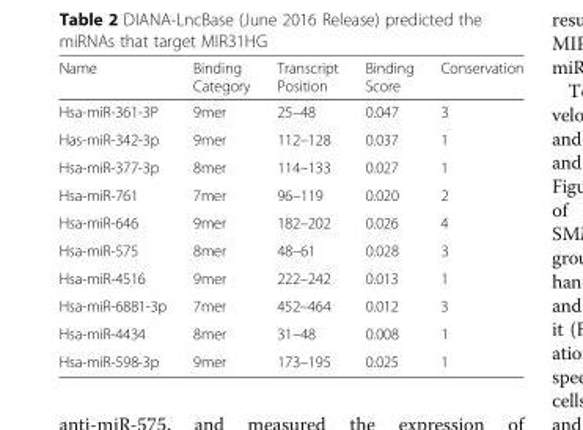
<table><thead><tr><td>Name</td><td>Binding Category</td><td>Transcript Position</td><td>Binding Score</td><td>Conservation</td></tr></thead><tbody><tr><td>Hsa-miR-361-3P</td><td>9mer</td><td>25–48</td><td>0.047</td><td>3</td></tr><tr><td>Has-miR-342-3p</td><td>9mer</td><td>112–128</td><td>0.037</td><td>1</td></tr><tr><td>Hsa-miR-377-3p</td><td>8mer</td><td>114–133</td><td>0.027</td><td>1</td></tr><tr><td>Hsa-miR-761</td><td>7mer</td><td>96–119</td><td>0.020</td><td>2</td></tr><tr><td>Hsa-miR-646</td><td>9mer</td><td>182–202</td><td>0.026</td><td>4</td></tr><tr><td>Hsa-miR-575</td><td>8mer</td><td>48–61</td><td>0.028</td><td>3</td></tr><tr><td>Hsa-miR-4516</td><td>9mer</td><td>222–242</td><td>0.013</td><td>1</td></tr><tr><td>Hsa-miR-6881-3p</td><td>7mer</td><td>452–464</td><td>0.012</td><td>3</td></tr><tr><td>Hsa-miR-4434</td><td>8mer</td><td>31–48</td><td>0.008</td><td>1</td></tr><tr><td>Hsa-miR-598-3p</td><td>9mer</td><td>173–195</td><td>0.025</td><td>1</td></tr></tbody></table>